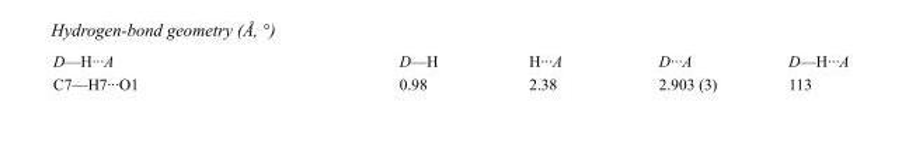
<table><tbody><tr><td>D—H···A</td><td>D—H</td><td>H···A</td><td>D···A</td><td>D—H···A</td></tr><tr><td>C7—H7···O1</td><td>0.98</td><td>2.38</td><td>2.903 (3)</td><td>113</td></tr></tbody></table>